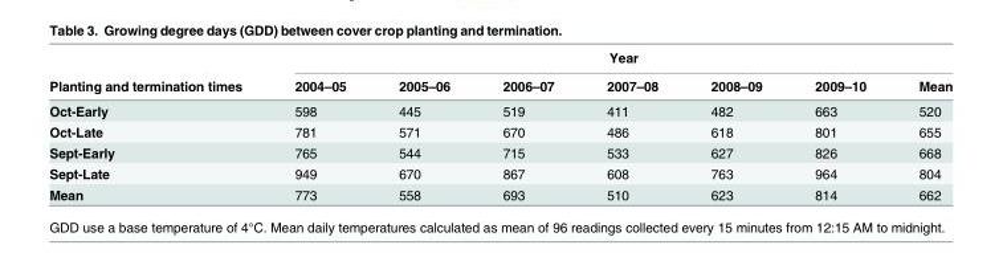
<table><thead><tr><td rowspan="2">Planting and termination times</td><td colspan="7">Year</td></tr><tr><td>2004–05</td><td>2005–06</td><td>2006–07</td><td>2007–08</td><td>2008–09</td><td>2009–10</td><td>Mean</td></tr></thead><tbody><tr><td>Oct-Early</td><td>598</td><td>445</td><td>519</td><td>411</td><td>482</td><td>663</td><td>520</td></tr><tr><td>Oct-Late</td><td>781</td><td>571</td><td>670</td><td>486</td><td>618</td><td>801</td><td>655</td></tr><tr><td>Sept-Early</td><td>765</td><td>544</td><td>715</td><td>533</td><td>627</td><td>826</td><td>668</td></tr><tr><td>Sept-Late</td><td>949</td><td>670</td><td>867</td><td>608</td><td>763</td><td>964</td><td>804</td></tr><tr><td>Mean</td><td>773</td><td>558</td><td>693</td><td>510</td><td>623</td><td>814</td><td>662</td></tr></tbody></table>